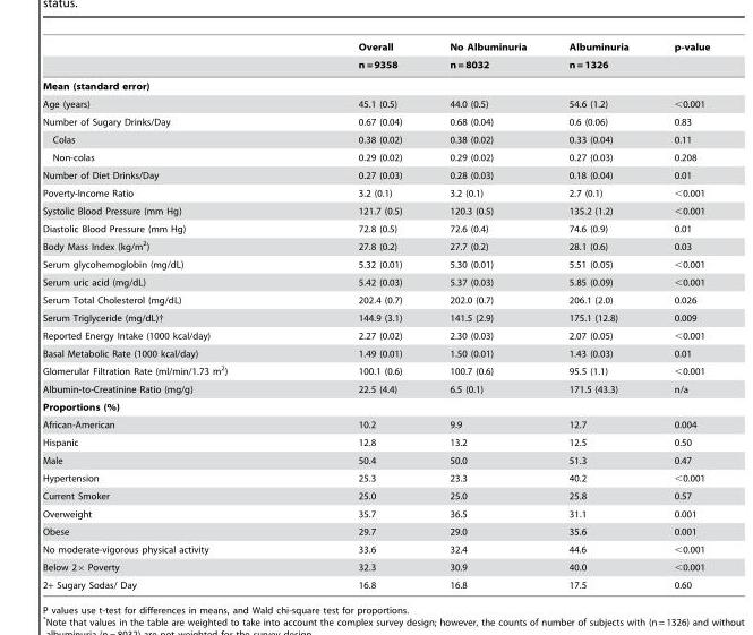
<table><thead><tr><td rowspan="2"></td><td rowspan="2">Overall n = 9358</td><td rowspan="2">No Albuminuria n = 8032</td><td rowspan="2">Albuminuria n = 1326</td><td rowspan="2">p-value</td></tr><tr></tr></thead><tbody><tr><td colspan="5">Mean (standard error)</td></tr><tr><td>Age (years)</td><td>45.1 (0.5)</td><td>44.0 (0.5)</td><td>54.6 (1.2)</td><td>&lt;0.001</td></tr><tr><td>Number of Sugary Drinks/Day</td><td>0.67 (0.04)</td><td>0.68 (0.04)</td><td>0.6 (0.06)</td><td>0.83</td></tr><tr><td>Colas</td><td>0.38 (0.02)</td><td>0.38 (0.02)</td><td>0.33 (0.04)</td><td>0.11</td></tr><tr><td>Non-colas</td><td>0.29 (0.02)</td><td>0.29 (0.02)</td><td>0.27 (0.03)</td><td>0.208</td></tr><tr><td>Number of Diet Drinks/Day</td><td>0.27 (0.03)</td><td>0.28 (0.03)</td><td>0.18 (0.04)</td><td>0.01</td></tr><tr><td>Poverty-Income Ratio</td><td>3.2 (0.1)</td><td>3.2 (0.1)</td><td>2.7 (0.1)</td><td>&lt;0.001</td></tr><tr><td>Systolic Blood Pressure (mm Hg)</td><td>121.7 (0.5)</td><td>120.3 (0.5)</td><td>135.2 (1.2)</td><td>&lt;0.001</td></tr><tr><td>Diastolic Blood Pressure (mm Hg)</td><td>72.8 (0.5)</td><td>72.6 (0.4)</td><td>74.6 (0.9)</td><td>0.01</td></tr><tr><td>Body Mass Index (kg/m<sup>2</sup>)</td><td>27.8 (0.2)</td><td>27.7 (0.2)</td><td>28.1 (0.6)</td><td>0.03</td></tr><tr><td>Serum glycohemoglobin (mg/dL)</td><td>5.32 (0.01)</td><td>5.30 (0.01)</td><td>5.51 (0.05)</td><td>&lt;0.001</td></tr><tr><td>Serum uric acid (mg/dL)</td><td>5.42 (0.03)</td><td>5.37 (0.03)</td><td>5.85 (0.09)</td><td>&lt;0.001</td></tr><tr><td>Serum Total Cholesterol (mg/dL)</td><td>202.4 (0.7)</td><td>202.0 (0.7)</td><td>206.1 (2.0)</td><td>0.026</td></tr><tr><td>Serum Triglyceride (mg/dL)†</td><td>144.9 (3.1)</td><td>141.5 (2.9)</td><td>175.1 (12.8)</td><td>0.009</td></tr><tr><td>Reported Energy Intake (1000 kcal/day)</td><td>2.27 (0.02)</td><td>2.30 (0.03)</td><td>2.07 (0.05)</td><td>&lt;0.001</td></tr><tr><td>Basal Metabolic Rate (1000 kcal/day)</td><td>1.49 (0.01)</td><td>1.50 (0.01)</td><td>1.43 (0.03)</td><td>0.01</td></tr><tr><td>Glomerular Filtration Rate (ml/min/1.73 m<sup>2</sup>)</td><td>100.1 (0.6)</td><td>100.7 (0.6)</td><td>95.5 (1.1)</td><td>&lt;0.001</td></tr><tr><td>Albumin-to-Creatinine Ratio (mg/g)</td><td>22.5 (4.4)</td><td>6.5 (0.1)</td><td>171.5 (43.3)</td><td>n/a</td></tr><tr><td colspan="5">Proportions (%)</td></tr><tr><td>African-American</td><td>10.2</td><td>9.9</td><td>12.7</td><td>0.004</td></tr><tr><td>Hispanic</td><td>12.8</td><td>13.2</td><td>12.5</td><td>0.50</td></tr><tr><td>Male</td><td>50.4</td><td>50.0</td><td>51.3</td><td>0.47</td></tr><tr><td>Hypertension</td><td>25.3</td><td>23.3</td><td>40.2</td><td>&lt;0.001</td></tr><tr><td>Current Smoker</td><td>25.0</td><td>25.0</td><td>25.8</td><td>0.57</td></tr><tr><td>Overweight</td><td>35.7</td><td>36.5</td><td>31.1</td><td>0.001</td></tr><tr><td>Obese</td><td>29.7</td><td>29.0</td><td>35.6</td><td>0.001</td></tr><tr><td>No moderate-vigorous physical activity</td><td>33.6</td><td>32.4</td><td>44.6</td><td>&lt;0.001</td></tr><tr><td>Below 2× Poverty</td><td>32.3</td><td>30.9</td><td>40.0</td><td>&lt;0.001</td></tr><tr><td>2+ Sugary Sodas/ Day</td><td>16.8</td><td>16.8</td><td>17.5</td><td>0.60</td></tr></tbody></table>